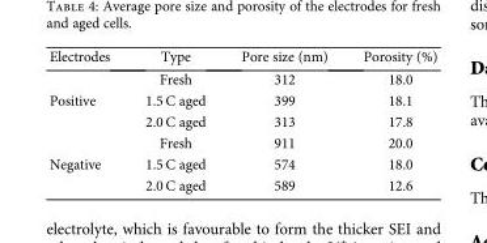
<table><thead><tr><td>Electrodes</td><td>Type</td><td>Pore size (nm)</td><td>Porosity (%)</td></tr></thead><tbody><tr><td rowspan="3">Positive</td><td>Fresh</td><td>312</td><td>18.0</td></tr><tr><td>1.5 C aged</td><td>399</td><td>18.1</td></tr><tr><td>2.0 C aged</td><td>313</td><td>17.8</td></tr><tr><td rowspan="3">Negative</td><td>Fresh</td><td>911</td><td>20.0</td></tr><tr><td>1.5 C aged</td><td>574</td><td>18.0</td></tr><tr><td>2.0 C aged</td><td>589</td><td>12.6</td></tr></tbody></table>